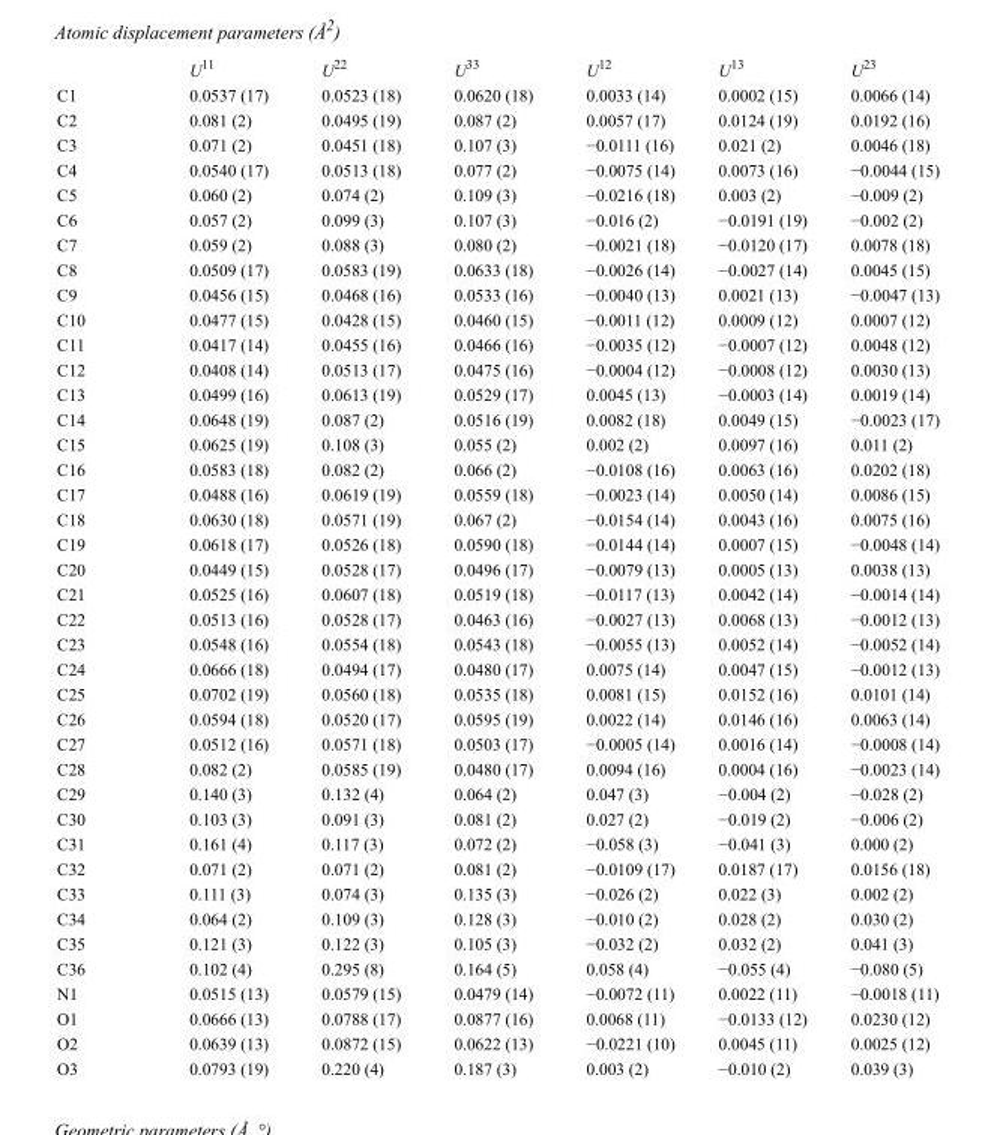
<table><thead><tr><td></td><td>U<sup>11</sup></td><td>U<sup>22</sup></td><td>U<sup>33</sup></td><td>U<sup>12</sup></td><td>U<sup>13</sup></td><td>U<sup>23</sup></td></tr></thead><tbody><tr><td>C1</td><td>0.0537 (17)</td><td>0.0523 (18)</td><td>0.0620 (18)</td><td>0.0033 (14)</td><td>0.0002 (15)</td><td>0.0066 (14)</td></tr><tr><td>C2</td><td>0.081 (2)</td><td>0.0495 (19)</td><td>0.087 (2)</td><td>0.0057 (17)</td><td>0.0124 (19)</td><td>0.0192 (16)</td></tr><tr><td>C3</td><td>0.071 (2)</td><td>0.0451 (18)</td><td>0.107 (3)</td><td>−0.0111 (16)</td><td>0.021 (2)</td><td>0.0046 (18)</td></tr><tr><td>C4</td><td>0.0540 (17)</td><td>0.0513 (18)</td><td>0.077 (2)</td><td>−0.0075 (14)</td><td>0.0073 (16)</td><td>−0.0044 (15)</td></tr><tr><td>C5</td><td>0.060 (2)</td><td>0.074 (2)</td><td>0.109 (3)</td><td>−0.0216 (18)</td><td>0.003 (2)</td><td>−0.009 (2)</td></tr><tr><td>C6</td><td>0.057 (2)</td><td>0.099 (3)</td><td>0.107 (3)</td><td>−0.016 (2)</td><td>−0.0191 (19)</td><td>−0.002 (2)</td></tr><tr><td>C7</td><td>0.059 (2)</td><td>0.088 (3)</td><td>0.080 (2)</td><td>−0.0021 (18)</td><td>−0.0120 (17)</td><td>0.0078 (18)</td></tr><tr><td>C8</td><td>0.0509 (17)</td><td>0.0583 (19)</td><td>0.0633 (18)</td><td>−0.0026 (14)</td><td>−0.0027 (14)</td><td>0.0045 (15)</td></tr><tr><td>C9</td><td>0.0456 (15)</td><td>0.0468 (16)</td><td>0.0533 (16)</td><td>−0.0040 (13)</td><td>0.0021 (13)</td><td>−0.0047 (13)</td></tr><tr><td>C10</td><td>0.0477 (15)</td><td>0.0428 (15)</td><td>0.0460 (15)</td><td>−0.0011 (12)</td><td>0.0009 (12)</td><td>0.0007 (12)</td></tr><tr><td>C11</td><td>0.0417 (14)</td><td>0.0455 (16)</td><td>0.0466 (16)</td><td>−0.0035 (12)</td><td>−0.0007 (12)</td><td>0.0048 (12)</td></tr><tr><td>C12</td><td>0.0408 (14)</td><td>0.0513 (17)</td><td>0.0475 (16)</td><td>−0.0004 (12)</td><td>−0.0008 (12)</td><td>0.0030 (13)</td></tr><tr><td>C13</td><td>0.0499 (16)</td><td>0.0613 (19)</td><td>0.0529 (17)</td><td>0.0045 (13)</td><td>−0.0003 (14)</td><td>0.0019 (14)</td></tr><tr><td>C14</td><td>0.0648 (19)</td><td>0.087 (2)</td><td>0.0516 (19)</td><td>0.0082 (18)</td><td>0.0049 (15)</td><td>−0.0023 (17)</td></tr><tr><td>C15</td><td>0.0625 (19)</td><td>0.108 (3)</td><td>0.055 (2)</td><td>0.002 (2)</td><td>0.0097 (16)</td><td>0.011 (2)</td></tr><tr><td>C16</td><td>0.0583 (18)</td><td>0.082 (2)</td><td>0.066 (2)</td><td>−0.0108 (16)</td><td>0.0063 (16)</td><td>0.0202 (18)</td></tr><tr><td>C17</td><td>0.0488 (16)</td><td>0.0619 (19)</td><td>0.0559 (18)</td><td>−0.0023 (14)</td><td>0.0050 (14)</td><td>0.0086 (15)</td></tr><tr><td>C18</td><td>0.0630 (18)</td><td>0.0571 (19)</td><td>0.067 (2)</td><td>−0.0154 (14)</td><td>0.0043 (16)</td><td>0.0075 (16)</td></tr><tr><td>C19</td><td>0.0618 (17)</td><td>0.0526 (18)</td><td>0.0590 (18)</td><td>−0.0144 (14)</td><td>0.0007 (15)</td><td>−0.0048 (14)</td></tr><tr><td>C20</td><td>0.0449 (15)</td><td>0.0528 (17)</td><td>0.0496 (17)</td><td>−0.0079 (13)</td><td>0.0005 (13)</td><td>0.0038 (13)</td></tr><tr><td>C21</td><td>0.0525 (16)</td><td>0.0607 (18)</td><td>0.0519 (18)</td><td>−0.0117 (13)</td><td>0.0042 (14)</td><td>−0.0014 (14)</td></tr><tr><td>C22</td><td>0.0513 (16)</td><td>0.0528 (17)</td><td>0.0463 (16)</td><td>−0.0027 (13)</td><td>0.0068 (13)</td><td>−0.0012 (13)</td></tr><tr><td>C23</td><td>0.0548 (16)</td><td>0.0554 (18)</td><td>0.0543 (18)</td><td>−0.0055 (13)</td><td>0.0052 (14)</td><td>−0.0052 (14)</td></tr><tr><td>C24</td><td>0.0666 (18)</td><td>0.0494 (17)</td><td>0.0480 (17)</td><td>0.0075 (14)</td><td>0.0047 (15)</td><td>−0.0012 (13)</td></tr><tr><td>C25</td><td>0.0702 (19)</td><td>0.0560 (18)</td><td>0.0535 (18)</td><td>0.0081 (15)</td><td>0.0152 (16)</td><td>0.0101 (14)</td></tr><tr><td>C26</td><td>0.0594 (18)</td><td>0.0520 (17)</td><td>0.0595 (19)</td><td>0.0022 (14)</td><td>0.0146 (16)</td><td>0.0063 (14)</td></tr><tr><td>C27</td><td>0.0512 (16)</td><td>0.0571 (18)</td><td>0.0503 (17)</td><td>−0.0005 (14)</td><td>0.0016 (14)</td><td>−0.0008 (14)</td></tr><tr><td>C28</td><td>0.082 (2)</td><td>0.0585 (19)</td><td>0.0480 (17)</td><td>0.0094 (16)</td><td>0.0004 (16)</td><td>−0.0023 (14)</td></tr><tr><td>C29</td><td>0.140 (3)</td><td>0.132 (4)</td><td>0.064 (2)</td><td>0.047 (3)</td><td>−0.004 (2)</td><td>−0.028 (2)</td></tr><tr><td>C30</td><td>0.103 (3)</td><td>0.091 (3)</td><td>0.081 (2)</td><td>0.027 (2)</td><td>−0.019 (2)</td><td>−0.006 (2)</td></tr><tr><td>C31</td><td>0.161 (4)</td><td>0.117 (3)</td><td>0.072 (2)</td><td>−0.058 (3)</td><td>−0.041 (3)</td><td>0.000 (2)</td></tr><tr><td>C32</td><td>0.071 (2)</td><td>0.071 (2)</td><td>0.081 (2)</td><td>−0.0109 (17)</td><td>0.0187 (17)</td><td>0.0156 (18)</td></tr><tr><td>C33</td><td>0.111 (3)</td><td>0.074 (3)</td><td>0.135 (3)</td><td>−0.026 (2)</td><td>0.022 (3)</td><td>0.002 (2)</td></tr><tr><td>C34</td><td>0.064 (2)</td><td>0.109 (3)</td><td>0.128 (3)</td><td>−0.010 (2)</td><td>0.028 (2)</td><td>0.030 (2)</td></tr><tr><td>C35</td><td>0.121 (3)</td><td>0.122 (3)</td><td>0.105 (3)</td><td>−0.032 (2)</td><td>0.032 (2)</td><td>0.041 (3)</td></tr><tr><td>C36</td><td>0.102 (4)</td><td>0.295 (8)</td><td>0.164 (5)</td><td>0.058 (4)</td><td>−0.055 (4)</td><td>−0.080 (5)</td></tr><tr><td>N1</td><td>0.0515 (13)</td><td>0.0579 (15)</td><td>0.0479 (14)</td><td>−0.0072 (11)</td><td>0.0022 (11)</td><td>−0.0018 (11)</td></tr><tr><td>O1</td><td>0.0666 (13)</td><td>0.0788 (17)</td><td>0.0877 (16)</td><td>0.0068 (11)</td><td>−0.0133 (12)</td><td>0.0230 (12)</td></tr><tr><td>O2</td><td>0.0639 (13)</td><td>0.0872 (15)</td><td>0.0622 (13)</td><td>−0.0221 (10)</td><td>0.0045 (11)</td><td>0.0025 (12)</td></tr><tr><td>O3</td><td>0.0793 (19)</td><td>0.220 (4)</td><td>0.187 (3)</td><td>0.003 (2)</td><td>−0.010 (2)</td><td>0.039 (3)</td></tr></tbody></table>